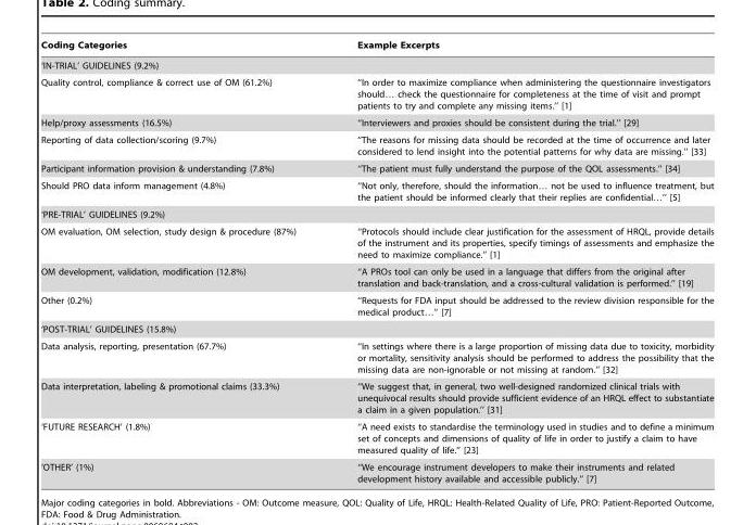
<table><thead><tr><td>Coding Categories</td><td>Example Excerpts</td></tr></thead><tbody><tr><td colspan="2">‘IN-TRIAL’ GUIDELINES (9.2%)</td></tr><tr><td>Quality control, compliance &amp; correct use of OM (61.2%)</td><td>‘‘In order to maximize compliance when administering the questionnaire investigators should… check the questionnaire for completeness at the time of visit and prompt patients to try and complete any missing items.’’ [1]</td></tr><tr><td>Help/proxy assessments (16.5%)</td><td>‘‘Interviewers and proxies should be consistent during the trial.’’ [29]</td></tr><tr><td>Reporting of data collection/scoring (9.7%)</td><td>‘‘The reasons for missing data should be recorded at the time of occurrence and later considered to lend insight into the potential patterns for why data are missing.’’ [33]</td></tr><tr><td>Participant information provision &amp; understanding (7.8%)</td><td>‘‘The patient must fully understand the purpose of the QOL assessments.’’ [34]</td></tr><tr><td>Should PRO data inform management (4.8%)</td><td>‘‘Not only, therefore, should the information… not be used to influence treatment, but the patient should be informed clearly that their replies are confidential…’’ [5]</td></tr><tr><td colspan="2">‘PRE-TRIAL’ GUIDELINES (9.2%)</td></tr><tr><td>OM evaluation, OM selection, study design &amp; procedure (87%)</td><td>‘‘Protocols should include clear justification for the assessment of HRQL, provide details of the instrument and its properties, specify timings of assessments and emphasize the need to maximize compliance.’’ [1]</td></tr><tr><td>OM development, validation, modification (12.8%)</td><td>‘‘A PROs tool can only be used in a language that differs from the original after translation and back-translation, and a cross-cultural validation is performed.’’ [19]</td></tr><tr><td>Other (0.2%)</td><td>‘‘Requests for FDA input should be addressed to the review division responsible for the medical product…’’ [7]</td></tr><tr><td colspan="2">‘POST-TRIAL’ GUIDELINES (15.8%)</td></tr><tr><td>Data analysis, reporting, presentation (67.7%)</td><td>‘‘In settings where there is a large proportion of missing data due to toxicity, morbidity or mortality, sensitivity analysis should be performed to address the possibility that the missing data are non-ignorable or not missing at random.’’ [32]</td></tr><tr><td>Data interpretation, labeling &amp; promotional claims (33.3%)</td><td>‘‘We suggest that, in general, two well-designed randomized clinical trials with unequivocal results should provide sufficient evidence of an HRQL effect to substantiate a claim in a given population.’’ [31]</td></tr><tr><td>‘FUTURE RESEARCH’ (1.8%)</td><td>‘‘A need exists to standardise the terminology used in studies and to define a minimum set of concepts and dimensions of quality of life in order to justify a claim to have measured quality of life.’’ [23]</td></tr><tr><td>‘OTHER’ (1%)</td><td>‘‘We encourage instrument developers to make their instruments and related development history available and accessible publicly.’’ [7]</td></tr></tbody></table>